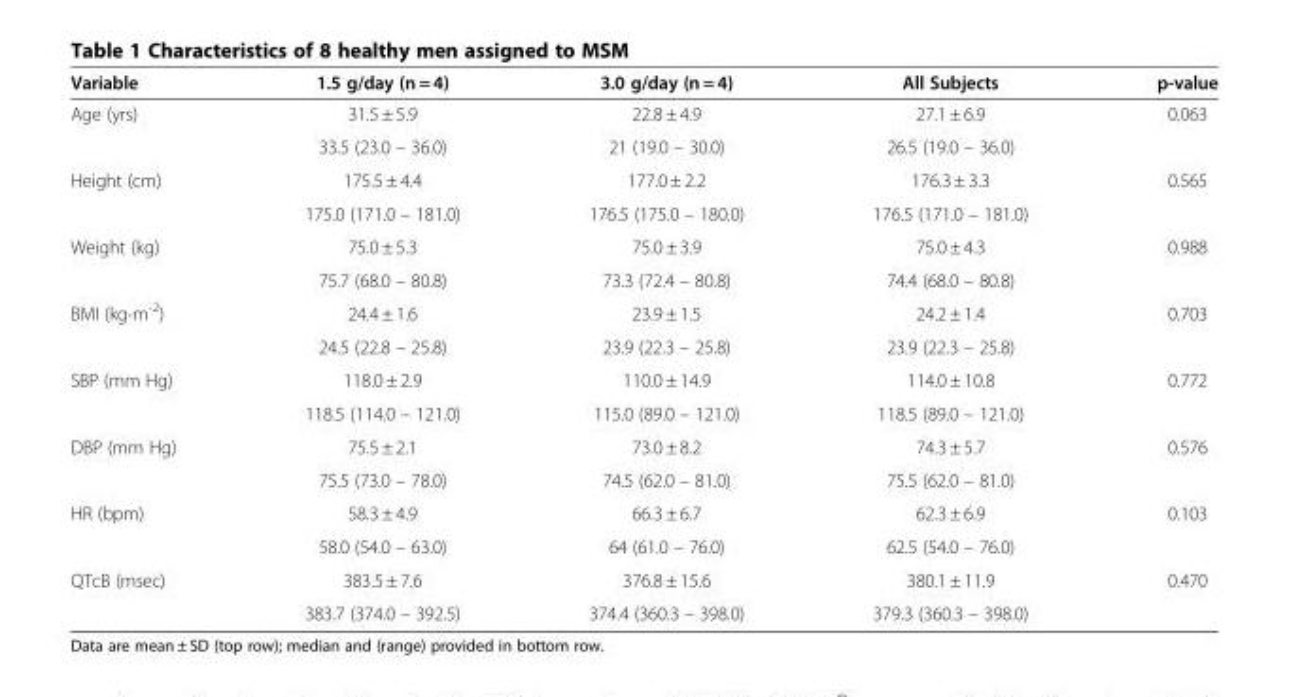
<table><thead><tr><td>Variable</td><td>1.5 g/day (n = 4)</td><td>3.0 g/day (n = 4)</td><td>All Subjects</td><td>p-value</td></tr></thead><tbody><tr><td rowspan="2">Age (yrs)</td><td>31.5 ± 5.9</td><td>22.8 ± 4.9</td><td>27.1 ± 6.9</td><td rowspan="2">0.063</td></tr><tr><td>33.5 (23.0 – 36.0)</td><td>21 (19.0 – 30.0)</td><td>26.5 (19.0 – 36.0)</td></tr><tr><td rowspan="2">Height (cm)</td><td>175.5 ± 4.4</td><td>177.0 ± 2.2</td><td>176.3 ± 3.3</td><td rowspan="2">0.565</td></tr><tr><td>175.0 (171.0 – 181.0)</td><td>176.5 (175.0 – 180.0)</td><td>176.5 (171.0 – 181.0)</td></tr><tr><td rowspan="2">Weight (kg)</td><td>75.0 ± 5.3</td><td>75.0 ± 3.9</td><td>75.0 ± 4.3</td><td rowspan="2">0.988</td></tr><tr><td>75.7 (68.0 – 80.8)</td><td>73.3 (72.4 – 80.8)</td><td>74.4 (68.0 – 80.8)</td></tr><tr><td rowspan="2">BMI (kg·m<sup>-2</sup>)</td><td>24.4 ± 1.6</td><td>23.9 ± 1.5</td><td>24.2 ± 1.4</td><td rowspan="2">0.703</td></tr><tr><td>24.5 (22.8 – 25.8)</td><td>23.9 (22.3 – 25.8)</td><td>23.9 (22.3 – 25.8)</td></tr><tr><td rowspan="2">SBP (mm Hg)</td><td>118.0 ± 2.9</td><td>110.0 ± 14.9</td><td>114.0 ± 10.8</td><td rowspan="2">0.772</td></tr><tr><td>118.5 (114.0 – 121.0)</td><td>115.0 (89.0 – 121.0)</td><td>118.5 (89.0 – 121.0)</td></tr><tr><td rowspan="2">DBP (mm Hg)</td><td>75.5 ± 2.1</td><td>73.0 ± 8.2</td><td>74.3 ± 5.7</td><td rowspan="2">0.576</td></tr><tr><td>75.5 (73.0 – 78.0)</td><td>74.5 (62.0 – 81.0)</td><td>75.5 (62.0 – 81.0)</td></tr><tr><td rowspan="2">HR (bpm)</td><td>58.3 ± 4.9</td><td>66.3 ± 6.7</td><td>62.3 ± 6.9</td><td rowspan="2">0.103</td></tr><tr><td>58.0 (54.0 – 63.0)</td><td>64 (61.0 – 76.0)</td><td>62.5 (54.0 – 76.0)</td></tr><tr><td rowspan="2">QTcB (msec)</td><td>383.5 ± 7.6</td><td>376.8 ± 15.6</td><td>380.1 ± 11.9</td><td>0.470</td></tr><tr><td>383.7 (374.0 – 392.5)</td><td>374.4 (360.3 – 398.0)</td><td>379.3 (360.3 – 398.0)</td><td></td></tr></tbody></table>